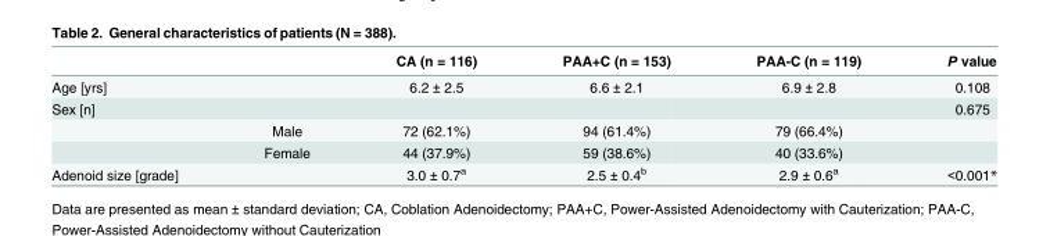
<table><thead><tr><td></td><td></td><td>CA (n = 116)</td><td>PAA+C (n = 153)</td><td>PAA-C (n = 119)</td><td>P value</td></tr></thead><tbody><tr><td>Age [yrs]</td><td></td><td>6.2 ± 2.5</td><td>6.6 ± 2.1</td><td>6.9 ± 2.8</td><td>0.108</td></tr><tr><td rowspan="3">Sex [n]</td><td></td><td></td><td></td><td></td><td>0.675</td></tr><tr><td>Male</td><td>72 (62.1%)</td><td>94 (61.4%)</td><td>79 (66.4%)</td><td></td></tr><tr><td>Female</td><td>44 (37.9%)</td><td>59 (38.6%)</td><td>40 (33.6%)</td><td></td></tr><tr><td>Adenoid size [grade]</td><td></td><td>3.0 ± 0.7<sup>a</sup></td><td>2.5 ± 0.4<sup>b</sup></td><td>2.9 ± 0.6<sup>a</sup></td><td>&lt;0.001*</td></tr></tbody></table>